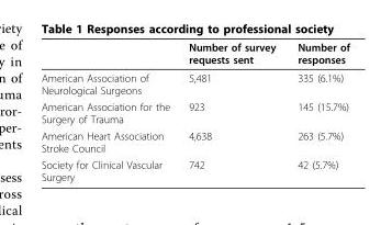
<table><thead><tr><td></td><td>Number of survey requests sent</td><td>Number of responses</td></tr></thead><tbody><tr><td>American Association of Neurological Surgeons</td><td>5,481</td><td>335 (6.1%)</td></tr><tr><td>American Association for the Surgery of Trauma</td><td>923</td><td>145 (15.7%)</td></tr><tr><td>American Heart Association Stroke Council</td><td>4,638</td><td>263 (5.7%)</td></tr><tr><td>Society for Clinical Vascular Surgery</td><td>742</td><td>42 (5.7%)</td></tr></tbody></table>